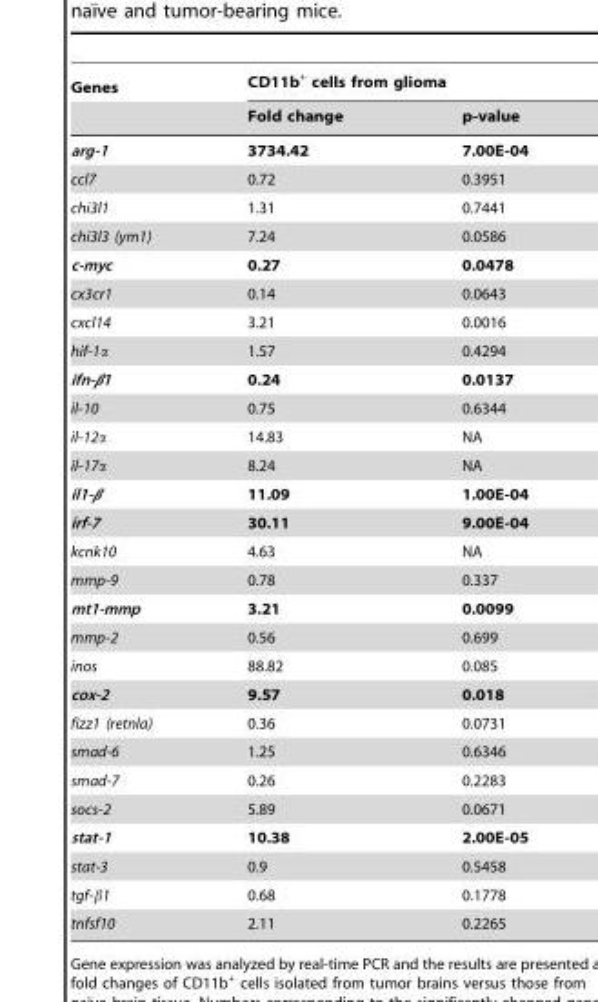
<table><thead><tr><td rowspan="2">Genes</td><td colspan="2">CD11b<sup>+</sup> cells from glioma</td></tr><tr><td>Fold change</td><td>p-value</td></tr></thead><tbody><tr><td>arg-1</td><td>3734.42</td><td>7.00E-04</td></tr><tr><td>ccl7</td><td>0.72</td><td>0.3951</td></tr><tr><td>chi3l1</td><td>1.31</td><td>0.7441</td></tr><tr><td>chi3l3 (ym1)</td><td>7.24</td><td>0.0586</td></tr><tr><td>c-myc</td><td>0.27</td><td>0.0478</td></tr><tr><td>cx3cr1</td><td>0.14</td><td>0.0643</td></tr><tr><td>cxcl14</td><td>3.21</td><td>0.0016</td></tr><tr><td>hif-1α</td><td>1.57</td><td>0.4294</td></tr><tr><td>ifn-β1</td><td>0.24</td><td>0.0137</td></tr><tr><td>il-10</td><td>0.75</td><td>0.6344</td></tr><tr><td>il-12α</td><td>14.83</td><td>NA</td></tr><tr><td>il-17α</td><td>8.24</td><td>NA</td></tr><tr><td>il1-β</td><td>11.09</td><td>1.00E-04</td></tr><tr><td>irf-7</td><td>30.11</td><td>9.00E-04</td></tr><tr><td>kcnk10</td><td>4.63</td><td>NA</td></tr><tr><td>mmp-9</td><td>0.78</td><td>0.337</td></tr><tr><td>mt1-mmp</td><td>3.21</td><td>0.0099</td></tr><tr><td>mmp-2</td><td>0.56</td><td>0.699</td></tr><tr><td>inos</td><td>88.82</td><td>0.085</td></tr><tr><td>cox-2</td><td>9.57</td><td>0.018</td></tr><tr><td>fizz1 (retnla)</td><td>0.36</td><td>0.0731</td></tr><tr><td>smad-6</td><td>1.25</td><td>0.6346</td></tr><tr><td>smad-7</td><td>0.26</td><td>0.2283</td></tr><tr><td>socs-2</td><td>5.89</td><td>0.0671</td></tr><tr><td>stat-1</td><td>10.38</td><td>2.00E-05</td></tr><tr><td>stat-3</td><td>0.9</td><td>0.5458</td></tr><tr><td>tgf-β1</td><td>0.68</td><td>0.1778</td></tr><tr><td>tnfsf10</td><td>2.11</td><td>0.2265</td></tr></tbody></table>